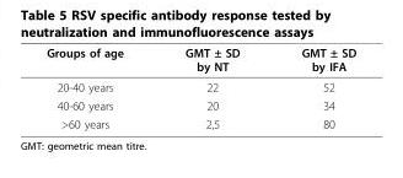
<table><thead><tr><td>Groups of age</td><td>GMT ± SD by NT</td><td>GMT ± SD by IFA</td></tr></thead><tbody><tr><td>20-40 years</td><td>22</td><td>52</td></tr><tr><td>40-60 years</td><td>20</td><td>34</td></tr><tr><td>&gt;60 years</td><td>2,5</td><td>80</td></tr></tbody></table>